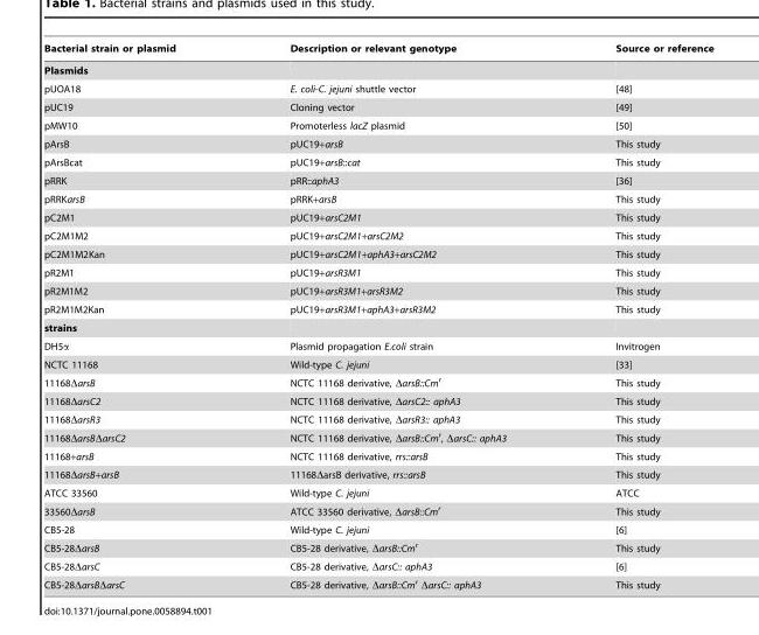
<table><thead><tr><td>Bacterial strain or plasmid</td><td>Description or relevant genotype</td><td>Source or reference</td></tr></thead><tbody><tr><td colspan="3">Plasmids</td></tr><tr><td>pUOA18</td><td>E. coli-C. jejuni shuttle vector</td><td>[48]</td></tr><tr><td>pUC19</td><td>Cloning vector</td><td>[49]</td></tr><tr><td>pMW10</td><td>Promoterless lacZ plasmid</td><td>[50]</td></tr><tr><td>pArsB</td><td>pUC19+arsB</td><td>This study</td></tr><tr><td>pArsBcat</td><td>pUC19+arsB::cat</td><td>This study</td></tr><tr><td>pRRK</td><td>pRR::aphA3</td><td>[36]</td></tr><tr><td>pRRKarsB</td><td>pRRK+arsB</td><td>This study</td></tr><tr><td>pC2M1</td><td>pUC19+arsC2M1</td><td>This study</td></tr><tr><td>pC2M1M2</td><td>pUC19+arsC2M1+arsC2M2</td><td>This study</td></tr><tr><td>pC2M1M2Kan</td><td>pUC19+arsC2M1+aphA3+arsC2M2</td><td>This study</td></tr><tr><td>pR2M1</td><td>pUC19+arsR3M1</td><td>This study</td></tr><tr><td>pR2M1M2</td><td>pUC19+arsR3M1+arsR3M2</td><td>This study</td></tr><tr><td>pR2M1M2Kan</td><td>pUC19+arsR3M1+aphA3+arsR3M2</td><td>This study</td></tr><tr><td colspan="3">strains</td></tr><tr><td>DH5α</td><td>Plasmid propagation E.coli strain</td><td>Invitrogen</td></tr><tr><td>NCTC 11168</td><td>Wild-type C. jejuni</td><td>[33]</td></tr><tr><td>11168ΔarsB</td><td>NCTC 11168 derivative, ΔarsB::Cm<sup>r</sup></td><td>This study</td></tr><tr><td>11168ΔarsC2</td><td>NCTC 11168 derivative, ΔarsC2:: aphA3</td><td>This study</td></tr><tr><td>11168ΔarsR3</td><td>NCTC 11168 derivative, ΔarsR3:: aphA3</td><td>This study</td></tr><tr><td>11168ΔarsBΔarsC2</td><td>NCTC 11168 derivative, ΔarsB::Cm<sup>r</sup>, ΔarsC:: aphA3</td><td>This study</td></tr><tr><td>11168+arsB</td><td>NCTC 11168 derivative, rrs::arsB</td><td>This study</td></tr><tr><td>11168ΔarsB+arsB</td><td>11168ΔarsB derivative, rrs::arsB</td><td>This study</td></tr><tr><td>ATCC 33560</td><td>Wild-type C. jejuni</td><td>ATCC</td></tr><tr><td>33560ΔarsB</td><td>ATCC 33560 derivative, ΔarsB::Cm<sup>r</sup></td><td>This study</td></tr><tr><td>CB5-28</td><td>Wild-type C. jejuni</td><td>[6]</td></tr><tr><td>CB5-28ΔarsB</td><td>CB5-28 derivative, ΔarsB::Cm<sup>r</sup></td><td>This study</td></tr><tr><td>CB5-28ΔarsC</td><td>CB5-28 derivative, ΔarsC:: aphA3</td><td>[6]</td></tr><tr><td>CB5-28ΔarsBΔarsC</td><td>CB5-28 derivative, ΔarsB::Cm<sup>r</sup> ΔarsC:: aphA3</td><td>This study</td></tr></tbody></table>